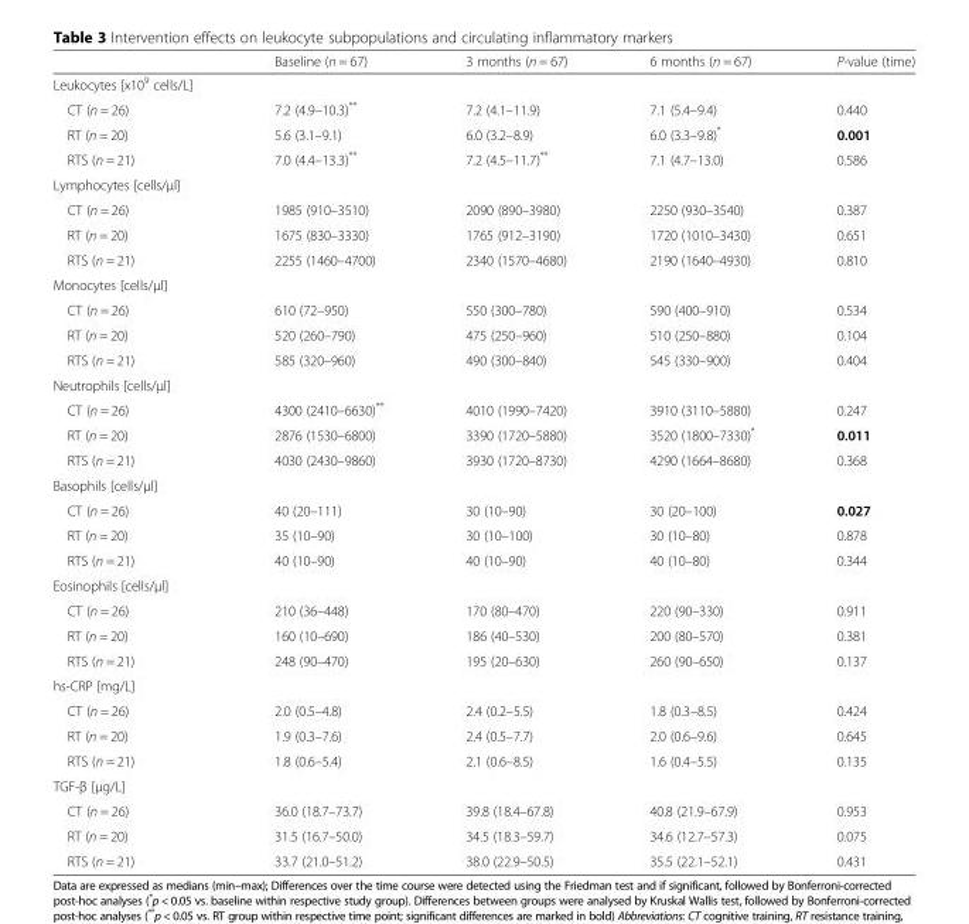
<table><thead><tr><td></td><td>Baseline (n = 67)</td><td>3 months (n = 67)</td><td>6 months (n = 67)</td><td>P-value (time)</td></tr></thead><tbody><tr><td colspan="5">Leukocytes [x10<sup>9</sup> cells/L]</td></tr><tr><td>CT (n = 26)</td><td>7.2 (4.9–10.3)**</td><td>7.2 (4.1–11.9)</td><td>7.1 (5.4–9.4)</td><td>0.440</td></tr><tr><td>RT (n = 20)</td><td>5.6 (3.1–9.1)</td><td>6.0 (3.2–8.9)</td><td>6.0 (3.3–9.8)*</td><td>0.001</td></tr><tr><td>RTS (n = 21)</td><td>7.0 (4.4–13.3)**</td><td>7.2 (4.5–11.7)**</td><td>7.1 (4.7–13.0)</td><td>0.586</td></tr><tr><td colspan="5">Lymphocytes [cells/μl]</td></tr><tr><td>CT (n = 26)</td><td>1985 (910–3510)</td><td>2090 (890–3980)</td><td>2250 (930–3540)</td><td>0.387</td></tr><tr><td>RT (n = 20)</td><td>1675 (830–3330)</td><td>1765 (912–3190)</td><td>1720 (1010–3430)</td><td>0.651</td></tr><tr><td>RTS (n = 21)</td><td>2255 (1460–4700)</td><td>2340 (1570–4680)</td><td>2190 (1640–4930)</td><td>0.810</td></tr><tr><td colspan="5">Monocytes [cells/μl]</td></tr><tr><td>CT (n = 26)</td><td>610 (72–950)</td><td>550 (300–780)</td><td>590 (400–910)</td><td>0.534</td></tr><tr><td>RT (n = 20)</td><td>520 (260–790)</td><td>475 (250–960)</td><td>510 (250–880)</td><td>0.104</td></tr><tr><td>RTS (n = 21)</td><td>585 (320–960)</td><td>490 (300–840)</td><td>545 (330–900)</td><td>0.404</td></tr><tr><td colspan="5">Neutrophils [cells/μl]</td></tr><tr><td>CT (n = 26)</td><td>4300 (2410–6630)**</td><td>4010 (1990–7420)</td><td>3910 (3110–5880)</td><td>0.247</td></tr><tr><td>RT (n = 20)</td><td>2876 (1530–6800)</td><td>3390 (1720–5880)</td><td>3520 (1800–7330)*</td><td>0.011</td></tr><tr><td>RTS (n = 21)</td><td>4030 (2430–9860)</td><td>3930 (1720–8730)</td><td>4290 (1664–8680)</td><td>0.368</td></tr><tr><td colspan="5">Basophils [cells/μl]</td></tr><tr><td>CT (n = 26)</td><td>40 (20–111)</td><td>30 (10–90)</td><td>30 (20–100)</td><td>0.027</td></tr><tr><td>RT (n = 20)</td><td>35 (10–90)</td><td>30 (10–100)</td><td>30 (10–80)</td><td>0.878</td></tr><tr><td>RTS (n = 21)</td><td>40 (10–90)</td><td>40 (10–90)</td><td>40 (10–80)</td><td>0.344</td></tr><tr><td colspan="5">Eosinophils [cells/μl]</td></tr><tr><td>CT (n = 26)</td><td>210 (36–448)</td><td>170 (80–470)</td><td>220 (90–330)</td><td>0.911</td></tr><tr><td>RT (n = 20)</td><td>160 (10–690)</td><td>186 (40–530)</td><td>200 (80–570)</td><td>0.381</td></tr><tr><td>RTS (n = 21)</td><td>248 (90–470)</td><td>195 (20–630)</td><td>260 (90–650)</td><td>0.137</td></tr><tr><td colspan="5">hs-CRP [mg/L]</td></tr><tr><td>CT (n = 26)</td><td>2.0 (0.5–4.8)</td><td>2.4 (0.2–5.5)</td><td>1.8 (0.3–8.5)</td><td>0.424</td></tr><tr><td>RT (n = 20)</td><td>1.9 (0.3–7.6)</td><td>2.4 (0.5–7.7)</td><td>2.0 (0.6–9.6)</td><td>0.645</td></tr><tr><td>RTS (n = 21)</td><td>1.8 (0.6–5.4)</td><td>2.1 (0.6–8.5)</td><td>1.6 (0.4–5.5)</td><td>0.135</td></tr><tr><td colspan="5">TGF-β [μg/L]</td></tr><tr><td>CT (n = 26)</td><td>36.0 (18.7–73.7)</td><td>39.8 (18.4–67.8)</td><td>40.8 (21.9–67.9)</td><td>0.953</td></tr><tr><td>RT (n = 20)</td><td>31.5 (16.7–50.0)</td><td>34.5 (18.3–59.7)</td><td>34.6 (12.7–57.3)</td><td>0.075</td></tr><tr><td>RTS (n = 21)</td><td>33.7 (21.0–51.2)</td><td>38.0 (22.9–50.5)</td><td>35.5 (22.1–52.1)</td><td>0.431</td></tr></tbody></table>